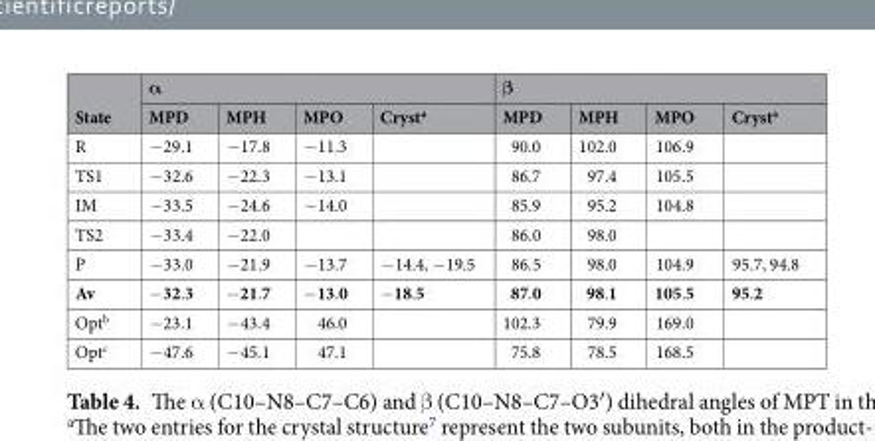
<table><thead><tr><td rowspan="2">State</td><td colspan="4">α</td><td colspan="4">β</td></tr><tr><td>MPD</td><td>MPH</td><td>MPO</td><td>Cryst<sup>a</sup></td><td>MPD</td><td>MPH</td><td>MPO</td><td>Cryst<sup>a</sup></td></tr></thead><tbody><tr><td>R</td><td>−29.1</td><td>−17.8</td><td>−11.3</td><td></td><td>90.0</td><td>102.0</td><td>106.9</td><td></td></tr><tr><td>TS1</td><td>−32.6</td><td>−22.3</td><td>−13.1</td><td></td><td>86.7</td><td>97.4</td><td>105.5</td><td></td></tr><tr><td>IM</td><td>−33.5</td><td>−24.6</td><td>−14.0</td><td></td><td>85.9</td><td>95.2</td><td>104.8</td><td></td></tr><tr><td>TS2</td><td>−33.4</td><td>−22.0</td><td></td><td></td><td>86.0</td><td>98.0</td><td></td><td></td></tr><tr><td>P</td><td>−33.0</td><td>−21.9</td><td>−13.7</td><td>−14.4, −19.5</td><td>86.5</td><td>98.0</td><td>104.9</td><td>95.7, 94.8</td></tr><tr><td>Av</td><td>−32.3</td><td>−21.7</td><td>−13.0</td><td>−18.5</td><td>87.0</td><td>98.1</td><td>105.5</td><td>95.2</td></tr><tr><td>Opt<sup>b</sup></td><td>−23.1</td><td>−43.4</td><td>46.0</td><td></td><td>102.3</td><td>79.9</td><td>169.0</td><td></td></tr><tr><td>Opt<sup>c</sup></td><td>−47.6</td><td>−45.1</td><td>47.1</td><td></td><td>75.8</td><td>78.5</td><td>168.5</td><td></td></tr></tbody></table>